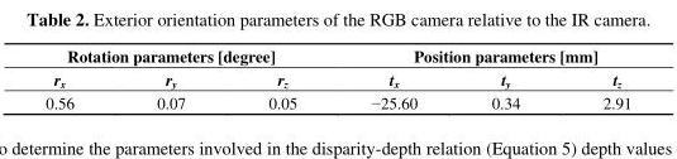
<table><thead><tr><td colspan="3">Rotation parameters [degree]</td><td colspan="3">Position parameters [mm]</td></tr><tr><td>r<sub>x</sub></td><td>r<sub>y</sub></td><td>r<sub>z</sub></td><td>t<sub>x</sub></td><td>t<sub>y</sub></td><td>t<sub>z</sub></td></tr></thead><tbody><tr><td>0.56</td><td>0.07</td><td>0.05</td><td>−25.60</td><td>0.34</td><td>2.91</td></tr></tbody></table>